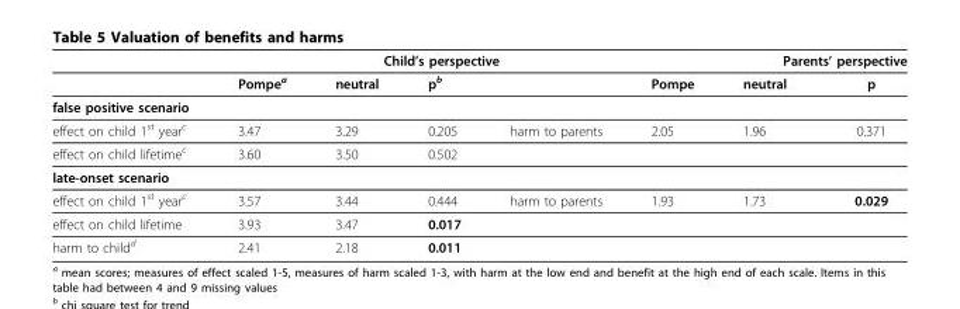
<table><thead><tr><td colspan="4">Child’s perspective</td><td colspan="4">Parents’ perspective</td></tr><tr><td></td><td>Pompe<sup>a</sup></td><td>neutral</td><td>p<sup>b</sup></td><td></td><td>Pompe</td><td>neutral</td><td>p</td></tr></thead><tbody><tr><td colspan="8">false positive scenario</td></tr><tr><td>effect on child 1<sup>st</sup> year<sup>c</sup></td><td>3.47</td><td>3.29</td><td>0.205</td><td>harm to parents</td><td>2.05</td><td>1.96</td><td>0.371</td></tr><tr><td>effect on child lifetime<sup>c</sup></td><td>3.60</td><td>3.50</td><td>0.502</td><td></td><td></td><td></td><td></td></tr><tr><td colspan="8">late-onset scenario</td></tr><tr><td>effect on child 1<sup>st</sup> year<sup>c</sup></td><td>3.57</td><td>3.44</td><td>0.444</td><td>harm to parents</td><td>1.93</td><td>1.73</td><td>0.029</td></tr><tr><td>effect on child lifetime</td><td>3.93</td><td>3.47</td><td>0.017</td><td></td><td></td><td></td><td></td></tr><tr><td>harm to child<sup>d</sup></td><td>2.41</td><td>2.18</td><td>0.011</td><td></td><td></td><td></td><td></td></tr></tbody></table>